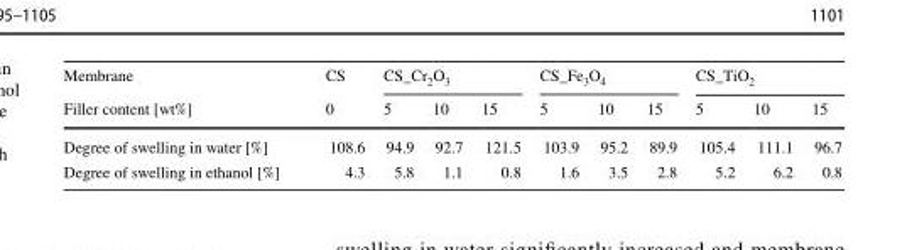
<table><thead><tr><td rowspan="2">Membrane Filler content [wt%]</td><td rowspan="2">CS 0</td><td colspan="3">CS_Cr<sub>2</sub>O<sub>3</sub></td><td colspan="3">CS_Fe<sub>3</sub>O<sub>4</sub></td><td colspan="3">CS_TiO<sub>2</sub></td></tr><tr><td>5</td><td>10</td><td>15</td><td>5</td><td>10</td><td>15</td><td>5</td><td>10</td><td>15</td></tr></thead><tbody><tr><td>Degree of swelling in water [%]</td><td>108.6</td><td>94.9</td><td>92.7</td><td>121.5</td><td>103.9</td><td>95.2</td><td>89.9</td><td>105.4</td><td>111.1</td><td>96.7</td></tr><tr><td>Degree of swelling in ethanol [%]</td><td>4.3</td><td>5.8</td><td>1.1</td><td>0.8</td><td>1.6</td><td>3.5</td><td>2.8</td><td>5.2</td><td>6.2</td><td>0.8</td></tr></tbody></table>